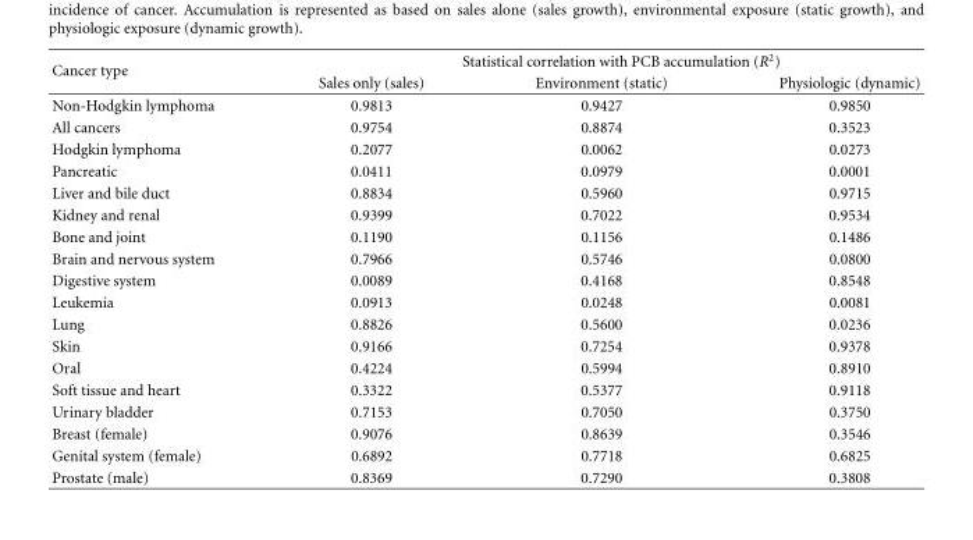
<table><thead><tr><td rowspan="2">Cancer type</td><td colspan="3">Statistical correlation with PCB accumulation (R<sup>2</sup>)</td></tr><tr><td>Sales only (sales)</td><td>Environment (static)</td><td>Physiologic (dynamic)</td></tr></thead><tbody><tr><td>Non-Hodgkin lymphoma</td><td>0.9813</td><td>0.9427</td><td>0.9850</td></tr><tr><td>All cancers</td><td>0.9754</td><td>0.8874</td><td>0.3523</td></tr><tr><td>Hodgkin lymphoma</td><td>0.2077</td><td>0.0062</td><td>0.0273</td></tr><tr><td>Pancreatic</td><td>0.0411</td><td>0.0979</td><td>0.0001</td></tr><tr><td>Liver and bile duct</td><td>0.8834</td><td>0.5960</td><td>0.9715</td></tr><tr><td>Kidney and renal</td><td>0.9399</td><td>0.7022</td><td>0.9534</td></tr><tr><td>Bone and joint</td><td>0.1190</td><td>0.1156</td><td>0.1486</td></tr><tr><td>Brain and nervous system</td><td>0.7966</td><td>0.5746</td><td>0.0800</td></tr><tr><td>Digestive system</td><td>0.0089</td><td>0.4168</td><td>0.8548</td></tr><tr><td>Leukemia</td><td>0.0913</td><td>0.0248</td><td>0.0081</td></tr><tr><td>Lung</td><td>0.8826</td><td>0.5600</td><td>0.0236</td></tr><tr><td>Skin</td><td>0.9166</td><td>0.7254</td><td>0.9378</td></tr><tr><td>Oral</td><td>0.4224</td><td>0.5994</td><td>0.8910</td></tr><tr><td>Soft tissue and heart</td><td>0.3322</td><td>0.5377</td><td>0.9118</td></tr><tr><td>Urinary bladder</td><td>0.7153</td><td>0.7050</td><td>0.3750</td></tr><tr><td>Breast (female)</td><td>0.9076</td><td>0.8639</td><td>0.3546</td></tr><tr><td>Genital system (female)</td><td>0.6892</td><td>0.7718</td><td>0.6825</td></tr><tr><td>Prostate (male)</td><td>0.8369</td><td>0.7290</td><td>0.3808</td></tr></tbody></table>